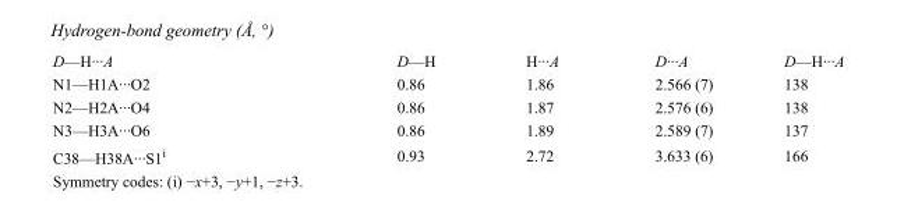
<table><tbody><tr><td>D—H···A</td><td>D—H</td><td>H···A</td><td>D···A</td><td>D—H···A</td></tr><tr><td>N1—H1A···O2</td><td>0.86</td><td>1.86</td><td>2.566 (7)</td><td>138</td></tr><tr><td>N2—H2A···O4</td><td>0.86</td><td>1.87</td><td>2.576 (6)</td><td>138</td></tr><tr><td>N3—H3A···O6</td><td>0.86</td><td>1.89</td><td>2.589 (7)</td><td>137</td></tr><tr><td>C38—H38A···S1<sup>i</sup></td><td>0.93</td><td>2.72</td><td>3.633 (6)</td><td>166</td></tr></tbody></table>